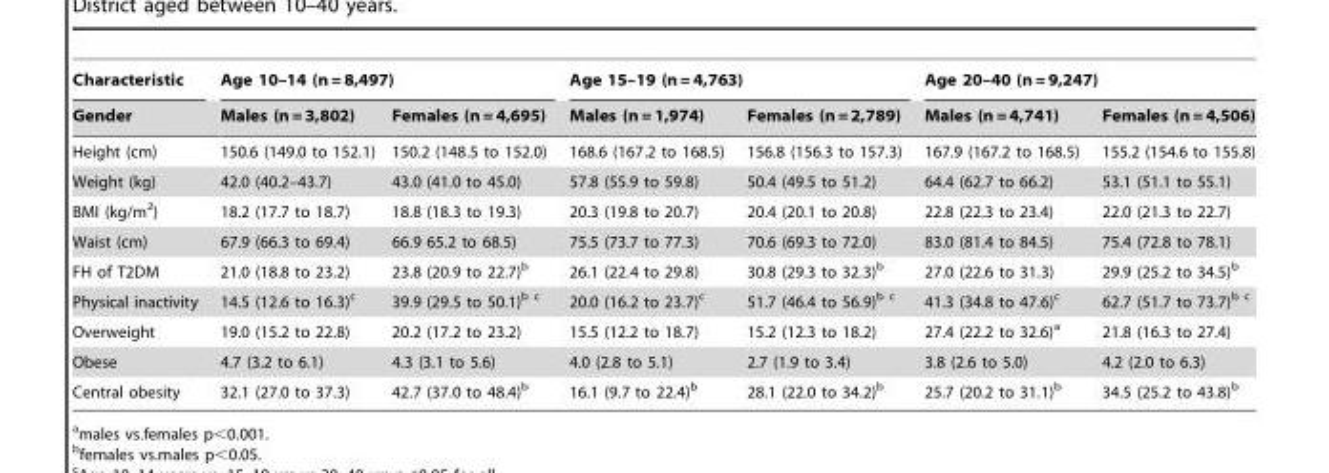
<table><thead><tr><td rowspan="2">Characteristic Gender</td><td colspan="2">Age 10–14 (n = 8,497)</td><td colspan="2">Age 15–19 (n = 4,763)</td><td colspan="2">Age 20–40 (n = 9,247)</td></tr><tr><td>Males (n = 3,802)</td><td>Females (n = 4,695)</td><td>Males (n = 1,974)</td><td>Females (n = 2,789)</td><td>Males (n = 4,741)</td><td>Females (n = 4,506)</td></tr></thead><tbody><tr><td>Height (cm)</td><td>150.6 (149.0 to 152.1)</td><td>150.2 (148.5 to 152.0)</td><td>168.6 (167.2 to 168.5)</td><td>156.8 (156.3 to 157.3)</td><td>167.9 (167.2 to 168.5)</td><td>155.2 (154.6 to 155.8)</td></tr><tr><td>Weight (kg)</td><td>42.0 (40.2–43.7)</td><td>43.0 (41.0 to 45.0)</td><td>57.8 (55.9 to 59.8)</td><td>50.4 (49.5 to 51.2)</td><td>64.4 (62.7 to 66.2)</td><td>53.1 (51.1 to 55.1)</td></tr><tr><td>BMI (kg/m<sup>2</sup>)</td><td>18.2 (17.7 to 18.7)</td><td>18.8 (18.3 to 19.3)</td><td>20.3 (19.8 to 20.7)</td><td>20.4 (20.1 to 20.8)</td><td>22.8 (22.3 to 23.4)</td><td>22.0 (21.3 to 22.7)</td></tr><tr><td>Waist (cm)</td><td>67.9 (66.3 to 69.4)</td><td>66.9 65.2 to 68.5)</td><td>75.5 (73.7 to 77.3)</td><td>70.6 (69.3 to 72.0)</td><td>83.0 (81.4 to 84.5)</td><td>75.4 (72.8 to 78.1)</td></tr><tr><td>FH of T2DM</td><td>21.0 (18.8 to 23.2)</td><td>23.8 (20.9 to 22.7)<sup>b</sup></td><td>26.1 (22.4 to 29.8)</td><td>30.8 (29.3 to 32.3)<sup>b</sup></td><td>27.0 (22.6 to 31.3)</td><td>29.9 (25.2 to 34.5)<sup>b</sup></td></tr><tr><td>Physical inactivity</td><td>14.5 (12.6 to 16.3)<sup>c</sup></td><td>39.9 (29.5 to 50.1)<sup>b c</sup></td><td>20.0 (16.2 to 23.7)<sup>c</sup></td><td>51.7 (46.4 to 56.9)<sup>b c</sup></td><td>41.3 (34.8 to 47.6)<sup>c</sup></td><td>62.7 (51.7 to 73.7)<sup>b c</sup></td></tr><tr><td>Overweight</td><td>19.0 (15.2 to 22.8)</td><td>20.2 (17.2 to 23.2)</td><td>15.5 (12.2 to 18.7)</td><td>15.2 (12.3 to 18.2)</td><td>27.4 (22.2 to 32.6)<sup>a</sup></td><td>21.8 (16.3 to 27.4)</td></tr><tr><td>Obese</td><td>4.7 (3.2 to 6.1)</td><td>4.3 (3.1 to 5.6)</td><td>4.0 (2.8 to 5.1)</td><td>2.7 (1.9 to 3.4)</td><td>3.8 (2.6 to 5.0)</td><td>4.2 (2.0 to 6.3)</td></tr><tr><td>Central obesity</td><td>32.1 (27.0 to 37.3)</td><td>42.7 (37.0 to 48.4)<sup>b</sup></td><td>16.1 (9.7 to 22.4)<sup>b</sup></td><td>28.1 (22.0 to 34.2)<sup>b</sup></td><td>25.7 (20.2 to 31.1)<sup>b</sup></td><td>34.5 (25.2 to 43.8)<sup>b</sup></td></tr></tbody></table>